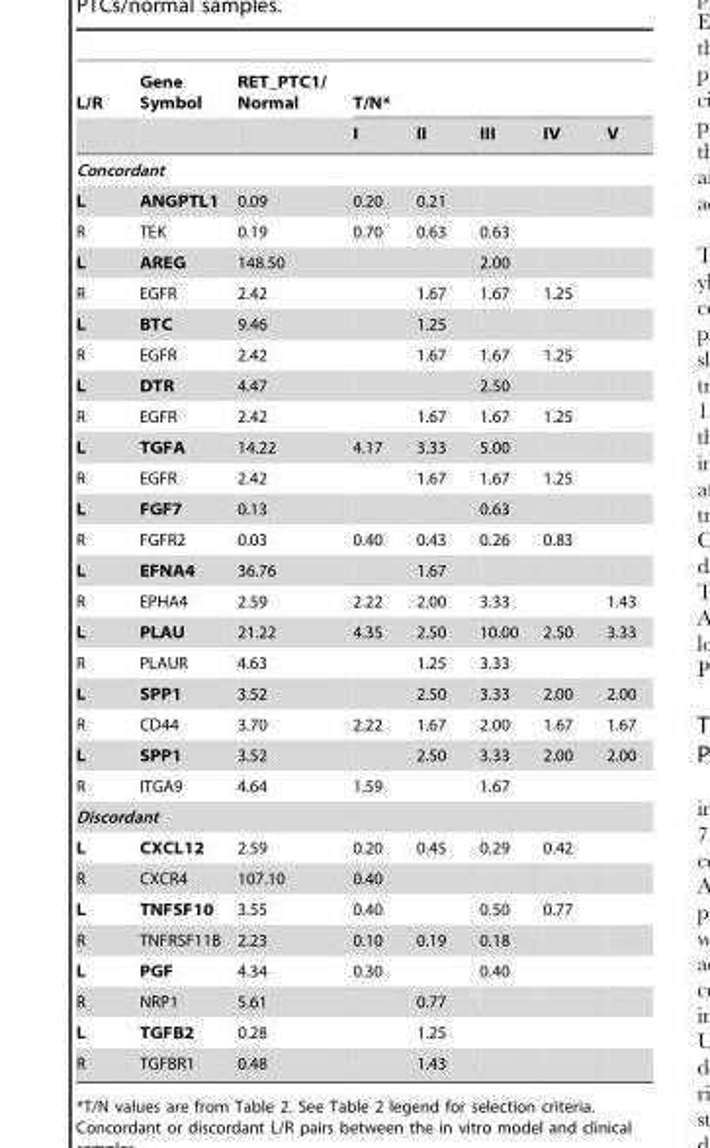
<table><thead><tr><td rowspan="2">L/R</td><td rowspan="2">Gene Symbol</td><td rowspan="2">RET_PTC1/ Normal</td><td colspan="5">T/N*</td></tr><tr><td>I</td><td>II</td><td>III</td><td>IV</td><td>V</td></tr></thead><tbody><tr><td colspan="8">Concordant</td></tr><tr><td>L</td><td>ANGPTL1</td><td>0.09</td><td>0.20</td><td>0.21</td><td></td><td></td><td></td></tr><tr><td>R</td><td>TEK</td><td>0.19</td><td>0.70</td><td>0.63</td><td>0.63</td><td></td><td></td></tr><tr><td>L</td><td>AREG</td><td>148.50</td><td></td><td></td><td>2.00</td><td></td><td></td></tr><tr><td>R</td><td>EGFR</td><td>2.42</td><td></td><td>1.67</td><td>1.67</td><td>1.25</td><td></td></tr><tr><td>L</td><td>BTC</td><td>9.46</td><td></td><td>1.25</td><td></td><td></td><td></td></tr><tr><td>R</td><td>EGFR</td><td>2.42</td><td></td><td>1.67</td><td>1.67</td><td>1.25</td><td></td></tr><tr><td>L</td><td>DTR</td><td>4.47</td><td></td><td></td><td>2.50</td><td></td><td></td></tr><tr><td>R</td><td>EGFR</td><td>2.42</td><td></td><td>1.67</td><td>1.67</td><td>1.25</td><td></td></tr><tr><td>L</td><td>TGFA</td><td>14.22</td><td>4.17</td><td>3.33</td><td>5.00</td><td></td><td></td></tr><tr><td>R</td><td>EGFR</td><td>2.42</td><td></td><td>1.67</td><td>1.67</td><td>1.25</td><td></td></tr><tr><td>L</td><td>FGF7</td><td>0.13</td><td></td><td></td><td>0.63</td><td></td><td></td></tr><tr><td>R</td><td>FGFR2</td><td>0.03</td><td>0.40</td><td>0.43</td><td>0.26</td><td>0.83</td><td></td></tr><tr><td>L</td><td>EFNA4</td><td>36.76</td><td></td><td>1.67</td><td></td><td></td><td></td></tr><tr><td>R</td><td>EPHA4</td><td>2.59</td><td>2.22</td><td>2.00</td><td>3.33</td><td></td><td>1.43</td></tr><tr><td>L</td><td>PLAU</td><td>21.22</td><td>4.35</td><td>2.50</td><td>10.00</td><td>2.50</td><td>3.33</td></tr><tr><td>R</td><td>PLAUR</td><td>4.63</td><td></td><td>1.25</td><td>3.33</td><td></td><td></td></tr><tr><td>L</td><td>SPP1</td><td>3.52</td><td></td><td>2.50</td><td>3.33</td><td>2.00</td><td>2.00</td></tr><tr><td>R</td><td>CD44</td><td>3.70</td><td>2.22</td><td>1.67</td><td>2.00</td><td>1.67</td><td>1.67</td></tr><tr><td>L</td><td>SPP1</td><td>3.52</td><td></td><td>2.50</td><td>3.33</td><td>2.00</td><td>2.00</td></tr><tr><td>R</td><td>ITGA9</td><td>4.64</td><td>1.59</td><td></td><td>1.67</td><td></td><td></td></tr><tr><td colspan="8">Discordant</td></tr><tr><td>L</td><td>CXCL12</td><td>2.59</td><td>0.20</td><td>0.45</td><td>0.29</td><td>0.42</td><td></td></tr><tr><td>R</td><td>CXCR4</td><td>107.10</td><td>0.40</td><td></td><td></td><td></td><td></td></tr><tr><td>L</td><td>TNFSF10</td><td>3.55</td><td>0.40</td><td></td><td>0.50</td><td>0.77</td><td></td></tr><tr><td>R</td><td>TNFRSF11B</td><td>2.23</td><td>0.10</td><td>0.19</td><td>0.18</td><td></td><td></td></tr><tr><td>L</td><td>PGF</td><td>4.34</td><td>0.30</td><td></td><td>0.40</td><td></td><td></td></tr><tr><td>R</td><td>NRP1</td><td>5.61</td><td></td><td>0.77</td><td></td><td></td><td></td></tr><tr><td>L</td><td>TGFB2</td><td>0.28</td><td></td><td>1.25</td><td></td><td></td><td></td></tr><tr><td>R</td><td>TGFBR1</td><td>0.48</td><td></td><td>1.43</td><td></td><td></td><td></td></tr></tbody></table>